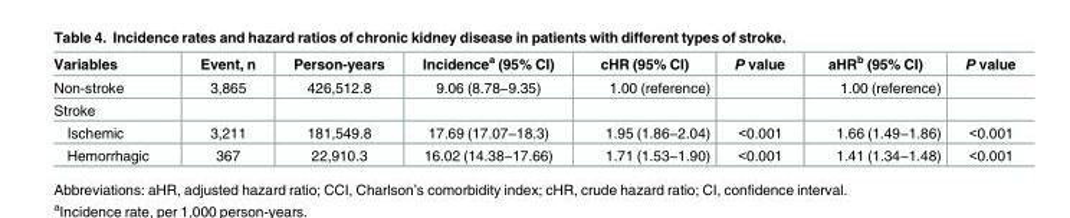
<table><thead><tr><td>Variables</td><td>Event, n</td><td>Person-years</td><td>Incidence<sup>a</sup> (95% CI)</td><td>cHR (95% CI)</td><td>P value</td><td>aHR<sup>b</sup> (95% CI)</td><td>P value</td></tr></thead><tbody><tr><td>Non-stroke</td><td>3,865</td><td>426,512.8</td><td>9.06 (8.78−9.35)</td><td>1.00 (reference)</td><td></td><td>1.00 (reference)</td><td></td></tr><tr><td colspan="8">Stroke</td></tr><tr><td>Ischemic</td><td>3,211</td><td>181,549.8</td><td>17.69 (17.07−18.3)</td><td>1.95 (1.86−2.04)</td><td>&lt;0.001</td><td>1.66 (1.49−1.86)</td><td>&lt;0.001</td></tr><tr><td>Hemorrhagic</td><td>367</td><td>22,910.3</td><td>16.02 (14.38−17.66)</td><td>1.71 (1.53−1.90)</td><td>&lt;0.001</td><td>1.41 (1.34−1.48)</td><td>&lt;0.001</td></tr></tbody></table>